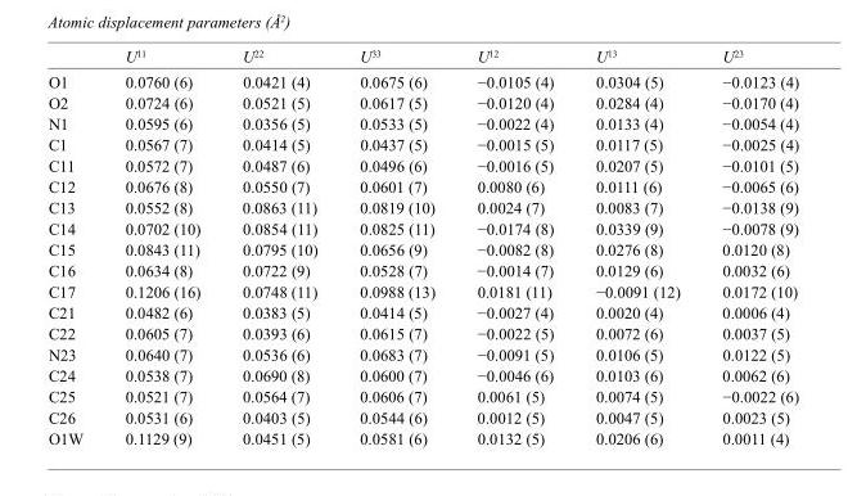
<table><thead><tr><td></td><td>U<sup>11</sup></td><td>U<sup>22</sup></td><td>U<sup>33</sup></td><td>U<sup>12</sup></td><td>U<sup>13</sup></td><td>U<sup>23</sup></td></tr></thead><tbody><tr><td>O1</td><td>0.0760 (6)</td><td>0.0421 (4)</td><td>0.0675 (6)</td><td>−0.0105 (4)</td><td>0.0304 (5)</td><td>−0.0123 (4)</td></tr><tr><td>O2</td><td>0.0724 (6)</td><td>0.0521 (5)</td><td>0.0617 (5)</td><td>−0.0120 (4)</td><td>0.0284 (4)</td><td>−0.0170 (4)</td></tr><tr><td>N1</td><td>0.0595 (6)</td><td>0.0356 (5)</td><td>0.0533 (5)</td><td>−0.0022 (4)</td><td>0.0133 (4)</td><td>−0.0054 (4)</td></tr><tr><td>C1</td><td>0.0567 (7)</td><td>0.0414 (5)</td><td>0.0437 (5)</td><td>−0.0015 (5)</td><td>0.0117 (5)</td><td>−0.0025 (4)</td></tr><tr><td>C11</td><td>0.0572 (7)</td><td>0.0487 (6)</td><td>0.0496 (6)</td><td>−0.0016 (5)</td><td>0.0207 (5)</td><td>−0.0101 (5)</td></tr><tr><td>C12</td><td>0.0676 (8)</td><td>0.0550 (7)</td><td>0.0601 (7)</td><td>0.0080 (6)</td><td>0.0111 (6)</td><td>−0.0065 (6)</td></tr><tr><td>C13</td><td>0.0552 (8)</td><td>0.0863 (11)</td><td>0.0819 (10)</td><td>0.0024 (7)</td><td>0.0083 (7)</td><td>−0.0138 (9)</td></tr><tr><td>C14</td><td>0.0702 (10)</td><td>0.0854 (11)</td><td>0.0825 (11)</td><td>−0.0174 (8)</td><td>0.0339 (9)</td><td>−0.0078 (9)</td></tr><tr><td>C15</td><td>0.0843 (11)</td><td>0.0795 (10)</td><td>0.0656 (9)</td><td>−0.0082 (8)</td><td>0.0276 (8)</td><td>0.0120 (8)</td></tr><tr><td>C16</td><td>0.0634 (8)</td><td>0.0722 (9)</td><td>0.0528 (7)</td><td>−0.0014 (7)</td><td>0.0129 (6)</td><td>0.0032 (6)</td></tr><tr><td>C17</td><td>0.1206 (16)</td><td>0.0748 (11)</td><td>0.0988 (13)</td><td>0.0181 (11)</td><td>−0.0091 (12)</td><td>0.0172 (10)</td></tr><tr><td>C21</td><td>0.0482 (6)</td><td>0.0383 (5)</td><td>0.0414 (5)</td><td>−0.0027 (4)</td><td>0.0020 (4)</td><td>0.0006 (4)</td></tr><tr><td>C22</td><td>0.0605 (7)</td><td>0.0393 (6)</td><td>0.0615 (7)</td><td>−0.0022 (5)</td><td>0.0072 (6)</td><td>0.0037 (5)</td></tr><tr><td>N23</td><td>0.0640 (7)</td><td>0.0536 (6)</td><td>0.0683 (7)</td><td>−0.0091 (5)</td><td>0.0106 (5)</td><td>0.0122 (5)</td></tr><tr><td>C24</td><td>0.0538 (7)</td><td>0.0690 (8)</td><td>0.0600 (7)</td><td>−0.0046 (6)</td><td>0.0103 (6)</td><td>0.0062 (6)</td></tr><tr><td>C25</td><td>0.0521 (7)</td><td>0.0564 (7)</td><td>0.0606 (7)</td><td>0.0061 (5)</td><td>0.0074 (5)</td><td>−0.0022 (6)</td></tr><tr><td>C26</td><td>0.0531 (6)</td><td>0.0403 (5)</td><td>0.0544 (6)</td><td>0.0012 (5)</td><td>0.0047 (5)</td><td>0.0023 (5)</td></tr><tr><td>O1W</td><td>0.1129 (9)</td><td>0.0451 (5)</td><td>0.0581 (6)</td><td>0.0132 (5)</td><td>0.0206 (6)</td><td>0.0011 (4)</td></tr></tbody></table>